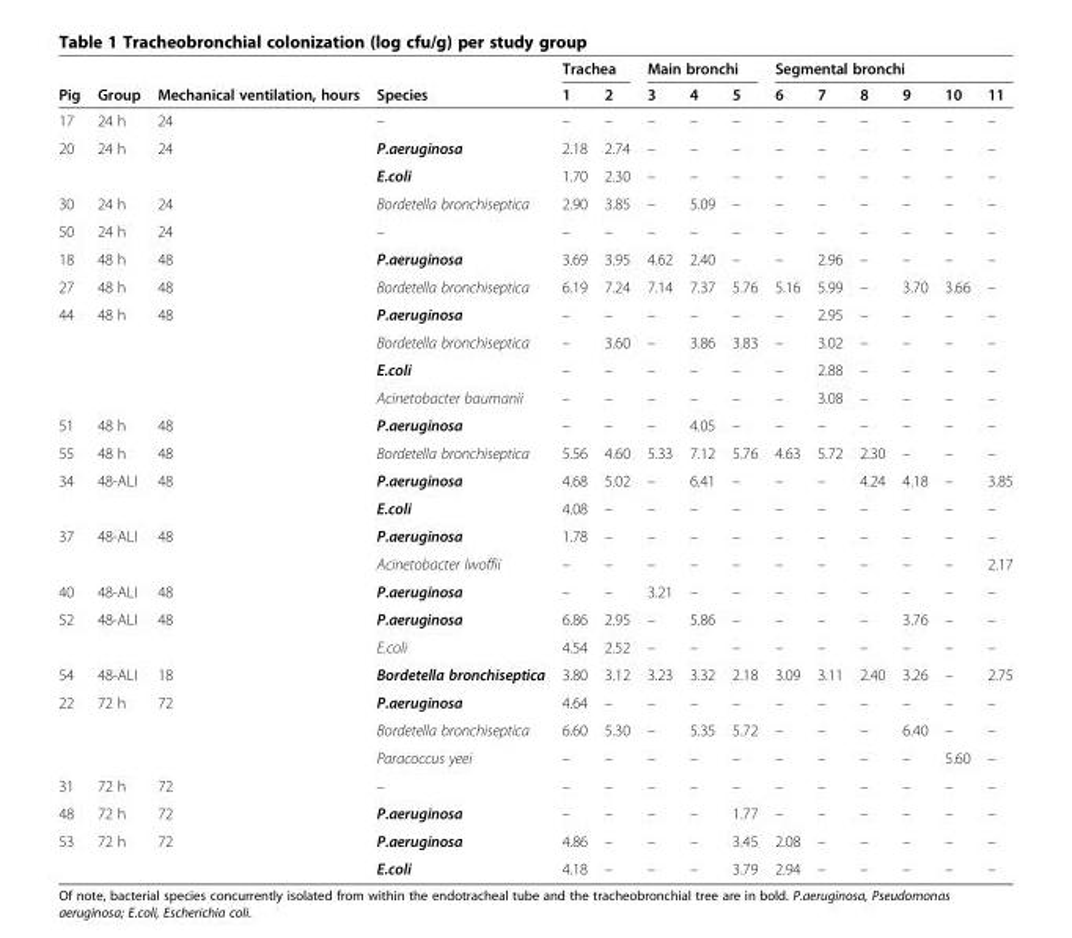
<table><thead><tr><td rowspan="2">Pig</td><td rowspan="2">Group</td><td rowspan="2">Mechanical ventilation, hours</td><td rowspan="2">Species</td><td colspan="2">Trachea</td><td colspan="3">Main bronchi</td><td colspan="6">Segmental bronchi</td></tr><tr><td>1</td><td>2</td><td>3</td><td>4</td><td>5</td><td>6</td><td>7</td><td>8</td><td>9</td><td>10</td><td>11</td></tr></thead><tbody><tr><td>17</td><td>24 h</td><td>24</td><td>–</td><td>–</td><td>–</td><td>–</td><td>–</td><td>–</td><td>–</td><td>–</td><td>–</td><td>–</td><td>–</td><td>–</td></tr><tr><td rowspan="2">20</td><td>24 h</td><td>24</td><td>P.aeruginosa</td><td>2.18</td><td>2.74</td><td>–</td><td>–</td><td>–</td><td>–</td><td>–</td><td>–</td><td>–</td><td>–</td><td>–</td></tr><tr><td></td><td></td><td>E.coli</td><td>1.70</td><td>2.30</td><td>–</td><td>–</td><td>–</td><td>–</td><td>–</td><td>–</td><td>–</td><td>–</td><td>–</td></tr><tr><td>30</td><td>24 h</td><td>24</td><td>Bordetella bronchiseptica</td><td>2.90</td><td>3.85</td><td>–</td><td>5.09</td><td>–</td><td>–</td><td>–</td><td>–</td><td>–</td><td>–</td><td>–</td></tr><tr><td>50</td><td>24 h</td><td>24</td><td>–</td><td>–</td><td>–</td><td>–</td><td>–</td><td>–</td><td>–</td><td>–</td><td>–</td><td>–</td><td>–</td><td>–</td></tr><tr><td>18</td><td>48 h</td><td>48</td><td>P.aeruginosa</td><td>3.69</td><td>3.95</td><td>4.62</td><td>2.40</td><td>–</td><td>–</td><td>2.96</td><td>–</td><td>–</td><td>–</td><td>–</td></tr><tr><td>27</td><td>48 h</td><td>48</td><td>Bordetella bronchiseptica</td><td>6.19</td><td>7.24</td><td>7.14</td><td>7.37</td><td>5.76</td><td>5.16</td><td>5.99</td><td>–</td><td>3.70</td><td>3.66</td><td>–</td></tr><tr><td rowspan="4">44</td><td>48 h</td><td>48</td><td>P.aeruginosa</td><td>–</td><td>–</td><td>–</td><td>–</td><td>–</td><td>–</td><td>2.95</td><td>–</td><td>–</td><td>–</td><td>–</td></tr><tr><td></td><td></td><td>Bordetella bronchiseptica</td><td>–</td><td>3.60</td><td>–</td><td>3.86</td><td>3.83</td><td>–</td><td>3.02</td><td>–</td><td>–</td><td>–</td><td>–</td></tr><tr><td></td><td></td><td>E.coli</td><td>–</td><td>–</td><td>–</td><td>–</td><td>–</td><td>–</td><td>2.88</td><td>–</td><td>–</td><td>–</td><td>–</td></tr><tr><td></td><td></td><td>Acinetobacter baumanii</td><td>–</td><td>–</td><td>–</td><td>–</td><td>–</td><td>–</td><td>3.08</td><td>–</td><td>–</td><td>–</td><td>–</td></tr><tr><td>51</td><td>48 h</td><td>48</td><td>P.aeruginosa</td><td>–</td><td>–</td><td>–</td><td>4.05</td><td>–</td><td>–</td><td>–</td><td>–</td><td>–</td><td>–</td><td>–</td></tr><tr><td>55</td><td>48 h</td><td>48</td><td>Bordetella bronchiseptica</td><td>5.56</td><td>4.60</td><td>5.33</td><td>7.12</td><td>5.76</td><td>4.63</td><td>5.72</td><td>2.30</td><td>–</td><td>–</td><td>–</td></tr><tr><td rowspan="2">34</td><td>48-ALI</td><td>48</td><td>P.aeruginosa</td><td>4.68</td><td>5.02</td><td>–</td><td>6.41</td><td>–</td><td>–</td><td>–</td><td>4.24</td><td>4.18</td><td>–</td><td>3.85</td></tr><tr><td></td><td></td><td>E.coli</td><td>4.08</td><td>–</td><td>–</td><td>–</td><td>–</td><td>–</td><td>–</td><td>–</td><td>–</td><td>–</td><td>–</td></tr><tr><td rowspan="2">37</td><td>48-ALI</td><td>48</td><td>P.aeruginosa</td><td>1.78</td><td>–</td><td>–</td><td>–</td><td>–</td><td>–</td><td>–</td><td>–</td><td>–</td><td>–</td><td>–</td></tr><tr><td></td><td></td><td>Acinetobacter lwoffii</td><td>–</td><td>–</td><td>–</td><td>–</td><td>–</td><td>–</td><td>–</td><td>–</td><td>–</td><td>–</td><td>2.17</td></tr><tr><td>40</td><td>48-ALI</td><td>48</td><td>P.aeruginosa</td><td>–</td><td>–</td><td>3.21</td><td>–</td><td>–</td><td>–</td><td>–</td><td>–</td><td>–</td><td>–</td><td>–</td></tr><tr><td rowspan="2">52</td><td>48-ALI</td><td>48</td><td>P.aeruginosa</td><td>6.86</td><td>2.95</td><td>–</td><td>5.86</td><td>–</td><td>–</td><td>–</td><td>–</td><td>3.76</td><td>–</td><td>–</td></tr><tr><td></td><td></td><td>E.coli</td><td>4.54</td><td>2.52</td><td>–</td><td>–</td><td>–</td><td>–</td><td>–</td><td>–</td><td>–</td><td>–</td><td>–</td></tr><tr><td>54</td><td>48-ALI</td><td>18</td><td>Bordetella bronchiseptica</td><td>3.80</td><td>3.12</td><td>3.23</td><td>3.32</td><td>2.18</td><td>3.09</td><td>3.11</td><td>2.40</td><td>3.26</td><td>–</td><td>2.75</td></tr><tr><td rowspan="3">22</td><td>72 h</td><td>72</td><td>P.aeruginosa</td><td>4.64</td><td>–</td><td>–</td><td>–</td><td>–</td><td>–</td><td>–</td><td>–</td><td>–</td><td>–</td><td>–</td></tr><tr><td></td><td></td><td>Bordetella bronchiseptica</td><td>6.60</td><td>5.30</td><td>–</td><td>5.35</td><td>5.72</td><td>–</td><td>–</td><td>–</td><td>6.40</td><td>–</td><td>–</td></tr><tr><td></td><td></td><td>Paracoccus yeei</td><td>–</td><td>–</td><td>–</td><td>–</td><td>–</td><td>–</td><td>–</td><td>–</td><td>–</td><td>5.60</td><td>–</td></tr><tr><td>31</td><td>72 h</td><td>72</td><td>–</td><td>–</td><td>–</td><td>–</td><td>–</td><td>–</td><td>–</td><td>–</td><td>–</td><td>–</td><td>–</td><td>–</td></tr><tr><td>48</td><td>72 h</td><td>72</td><td>P.aeruginosa</td><td>–</td><td>–</td><td>–</td><td>–</td><td>1.77</td><td>–</td><td>–</td><td>–</td><td>–</td><td>–</td><td>–</td></tr><tr><td rowspan="2">53</td><td>72 h</td><td>72</td><td>P.aeruginosa</td><td>4.86</td><td>–</td><td>–</td><td>–</td><td>3.45</td><td>2.08</td><td>–</td><td>–</td><td>–</td><td>–</td><td>–</td></tr><tr><td></td><td></td><td>E.coli</td><td>4.18</td><td>–</td><td>–</td><td>–</td><td>3.79</td><td>2.94</td><td>–</td><td>–</td><td>–</td><td>–</td><td>–</td></tr></tbody></table>